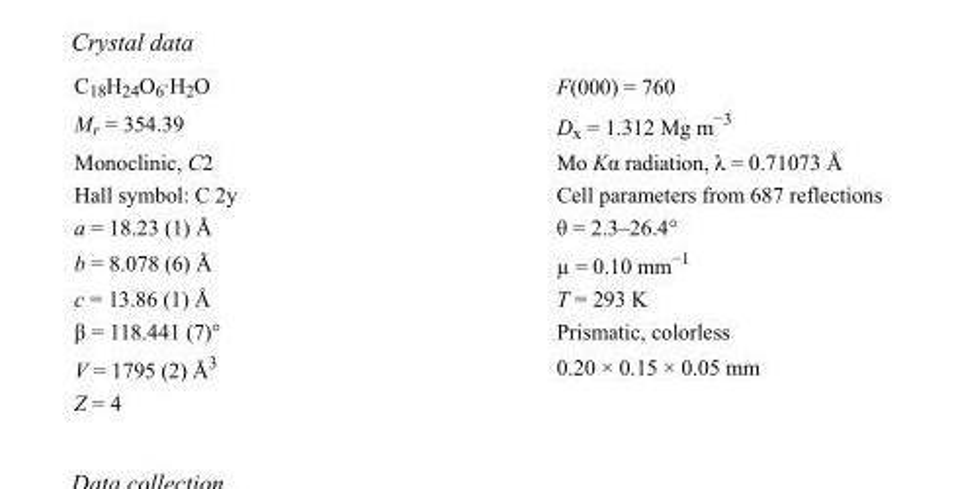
<table><tbody><tr><td>C<sub>18</sub>H<sub>24</sub>O<sub>6</sub>·H<sub>2</sub>O</td><td>F(000) = 760</td></tr><tr><td>M<sub>r</sub> = 354.39</td><td>D<sub>x</sub> = 1.312 Mg m<sup>−3</sup></td></tr><tr><td>Monoclinic, C2</td><td>Mo Kα radiation, λ = 0.71073 Å</td></tr><tr><td>Hall symbol: C 2y</td><td>Cell parameters from 687 reflections</td></tr><tr><td>a = 18.23 (1) Å</td><td>θ = 2.3–26.4°</td></tr><tr><td>b = 8.078 (6) Å</td><td>µ = 0.10 mm<sup>−1</sup></td></tr><tr><td>c = 13.86 (1) Å</td><td>T = 293 K</td></tr><tr><td>β = 118.441 (7)°</td><td>Prismatic, colorless</td></tr><tr><td>V = 1795 (2) Å<sup>3</sup></td><td>0.20 × 0.15 × 0.05 mm</td></tr><tr><td>Z = 4</td><td></td></tr></tbody></table>